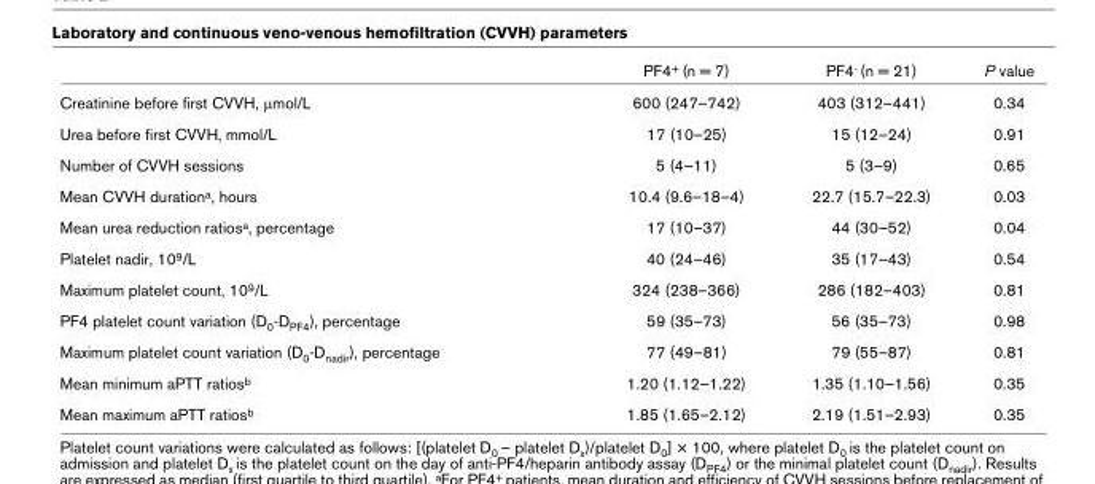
<table><thead><tr><td></td><td>PF4<sup>+</sup> (n = 7)</td><td>PF4<sup>-</sup> (n = 21)</td><td>P value</td></tr></thead><tbody><tr><td>Creatinine before first CVVH, μmol/L</td><td>600 (247–742)</td><td>403 (312–441)</td><td>0.34</td></tr><tr><td>Urea before first CVVH, mmol/L</td><td>17 (10–25)</td><td>15 (12–24)</td><td>0.91</td></tr><tr><td>Number of CVVH sessions</td><td>5 (4–11)</td><td>5 (3–9)</td><td>0.65</td></tr><tr><td>Mean CVVH duration<sup>a</sup>, hours</td><td>10.4 (9.6–18–4)</td><td>22.7 (15.7–22.3)</td><td>0.03</td></tr><tr><td>Mean urea reduction ratios<sup>a</sup>, percentage</td><td>17 (10–37)</td><td>44 (30–52)</td><td>0.04</td></tr><tr><td>Platelet nadir, 10<sup>9</sup>/L</td><td>40 (24–46)</td><td>35 (17–43)</td><td>0.54</td></tr><tr><td>Maximum platelet count, 10<sup>9</sup>/L</td><td>324 (238–366)</td><td>286 (182–403)</td><td>0.81</td></tr><tr><td>PF4 platelet count variation (D<sub>0</sub>-D<sub>PF4</sub>), percentage</td><td>59 (35–73)</td><td>56 (35–73)</td><td>0.98</td></tr><tr><td>Maximum platelet count variation (D<sub>0</sub>-D<sub>nadir</sub>), percentage</td><td>77 (49–81)</td><td>79 (55–87)</td><td>0.81</td></tr><tr><td>Mean minimum aPTT ratios<sup>b</sup></td><td>1.20 (1.12–1.22)</td><td>1.35 (1.10–1.56)</td><td>0.35</td></tr><tr><td>Mean maximum aPTT ratios<sup>b</sup></td><td>1.85 (1.65–2.12)</td><td>2.19 (1.51–2.93)</td><td>0.35</td></tr></tbody></table>